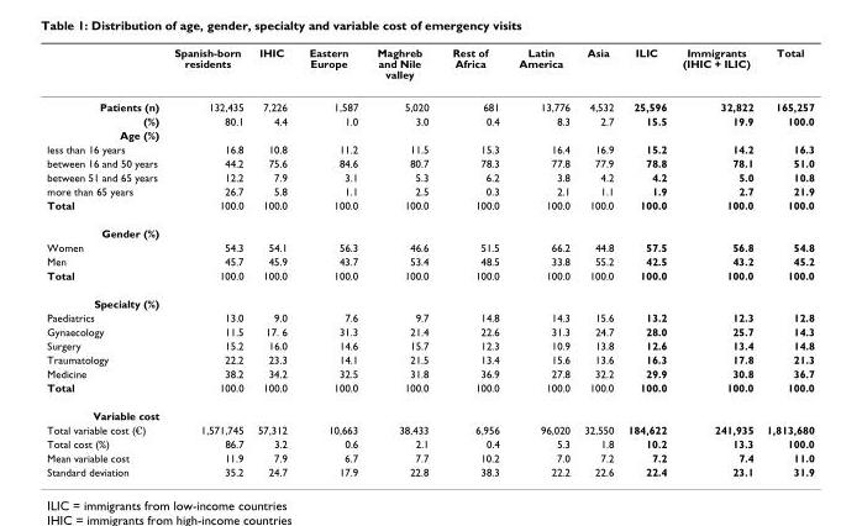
<table><thead><tr><td></td><td>Spanish-born residents</td><td>IHIC</td><td>Eastern Europe</td><td>Maghreb and Nile valley</td><td>Rest of Africa</td><td>Latin America</td><td>Asia</td><td>ILIC</td><td>Immigrants (IHIC + ILIC)</td><td>Total</td></tr></thead><tbody><tr><td>Patients (n)</td><td>132,435</td><td>7,226</td><td>1,587</td><td>5,020</td><td>681</td><td>13,776</td><td>4,532</td><td>25,596</td><td>32,822</td><td>165,257</td></tr><tr><td>(%)</td><td>80.1</td><td>4.4</td><td>1.0</td><td>3.0</td><td>0.4</td><td>8.3</td><td>2.7</td><td>15.5</td><td>19.9</td><td>100.0</td></tr><tr><td colspan="11">Age (%)</td></tr><tr><td>less than 16 years</td><td>16.8</td><td>10.8</td><td>11.2</td><td>11.5</td><td>15.3</td><td>16.4</td><td>16.9</td><td>15.2</td><td>14.2</td><td>16.3</td></tr><tr><td>between 16 and 50 years</td><td>44.2</td><td>75.6</td><td>84.6</td><td>80.7</td><td>78.3</td><td>77.8</td><td>77.9</td><td>78.8</td><td>78.1</td><td>51.0</td></tr><tr><td>between 51 and 65 years</td><td>12.2</td><td>7.9</td><td>3.1</td><td>5.3</td><td>6.2</td><td>3.8</td><td>4.2</td><td>4.2</td><td>5.0</td><td>10.8</td></tr><tr><td>more than 65 years</td><td>26.7</td><td>5.8</td><td>1.1</td><td>2.5</td><td>0.3</td><td>2.1</td><td>1.1</td><td>1.9</td><td>2.7</td><td>21.9</td></tr><tr><td>Total</td><td>100.0</td><td>100.0</td><td>100.0</td><td>100.0</td><td>100.0</td><td>100.0</td><td>100.0</td><td>100.0</td><td>100.0</td><td>100.0</td></tr><tr><td colspan="11">Gender (%)</td></tr><tr><td>Women</td><td>54.3</td><td>54.1</td><td>56.3</td><td>46.6</td><td>51.5</td><td>66.2</td><td>44.8</td><td>57.5</td><td>56.8</td><td>54.8</td></tr><tr><td>Men</td><td>45.7</td><td>45.9</td><td>43.7</td><td>53.4</td><td>48.5</td><td>33.8</td><td>55.2</td><td>42.5</td><td>43.2</td><td>45.2</td></tr><tr><td>Total</td><td>100.0</td><td>100.0</td><td>100.0</td><td>100.0</td><td>100.0</td><td>100.0</td><td>100.0</td><td>100.0</td><td>100.0</td><td>100.0</td></tr><tr><td colspan="11">Specialty (%)</td></tr><tr><td>Paediatrics</td><td>13.0</td><td>9.0</td><td>7.6</td><td>9.7</td><td>14.8</td><td>14.3</td><td>15.6</td><td>13.2</td><td>12.3</td><td>12.8</td></tr><tr><td>Gynaecology</td><td>11.5</td><td>17. 6</td><td>31.3</td><td>21.4</td><td>22.6</td><td>31.3</td><td>24.7</td><td>28.0</td><td>25.7</td><td>14.3</td></tr><tr><td>Surgery</td><td>15.2</td><td>16.0</td><td>14.6</td><td>15.7</td><td>12.3</td><td>10.9</td><td>13.8</td><td>12.6</td><td>13.4</td><td>14.8</td></tr><tr><td>Traumatology</td><td>22.2</td><td>23.3</td><td>14.1</td><td>21.5</td><td>13.4</td><td>15.6</td><td>13.6</td><td>16.3</td><td>17.8</td><td>21.3</td></tr><tr><td>Medicine</td><td>38.2</td><td>34.2</td><td>32.5</td><td>31.8</td><td>36.9</td><td>27.8</td><td>32.2</td><td>29.9</td><td>30.8</td><td>36.7</td></tr><tr><td>Total</td><td>100.0</td><td>100.0</td><td>100.0</td><td>100.0</td><td>100.0</td><td>100.0</td><td>100.0</td><td>100.0</td><td>100.0</td><td>100.0</td></tr><tr><td colspan="11">Variable cost</td></tr><tr><td>Total variable cost (€)</td><td>1,571,745</td><td>57,312</td><td>10,663</td><td>38,433</td><td>6,956</td><td>96,020</td><td>32,550</td><td>184,622</td><td>241,935</td><td>1,813,680</td></tr><tr><td>Total cost (%)</td><td>86.7</td><td>3.2</td><td>0.6</td><td>2.1</td><td>0.4</td><td>5.3</td><td>1.8</td><td>10.2</td><td>13.3</td><td>100.0</td></tr><tr><td>Mean variable cost</td><td>11.9</td><td>7.9</td><td>6.7</td><td>7.7</td><td>10.2</td><td>7.0</td><td>7.2</td><td>7.2</td><td>7.4</td><td>11.0</td></tr><tr><td>Standard deviation</td><td>35.2</td><td>24.7</td><td>17.9</td><td>22.8</td><td>38.3</td><td>22.2</td><td>22.6</td><td>22.4</td><td>23.1</td><td>31.9</td></tr></tbody></table>